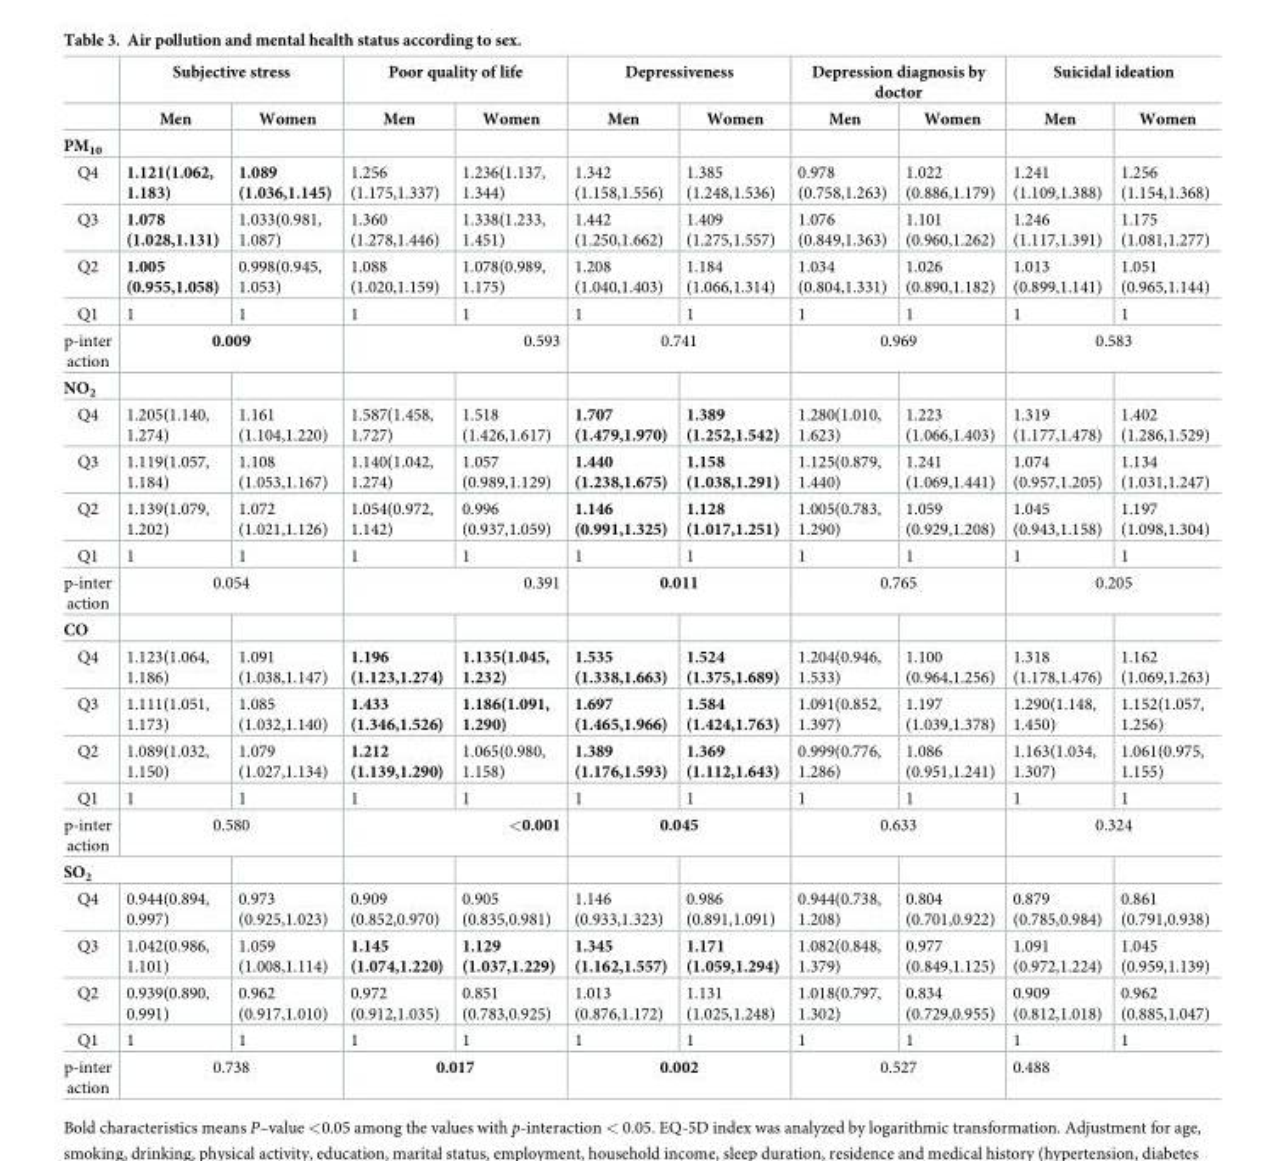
<table><thead><tr><td rowspan="2"></td><td colspan="2">Subjective stress</td><td colspan="2">Poor quality of life</td><td colspan="2">Depressiveness</td><td colspan="2">Depression diagnosis by doctor</td><td colspan="2">Suicidal ideation</td></tr><tr><td>Men</td><td>Women</td><td>Men</td><td>Women</td><td>Men</td><td>Women</td><td>Men</td><td>Women</td><td>Men</td><td>Women</td></tr></thead><tbody><tr><td colspan="11">PM<sub>10</sub></td></tr><tr><td>Q4</td><td>1.121(1.062, 1.183)</td><td>1.089 (1.036,1.145)</td><td>1.256 (1.175,1.337)</td><td>1.236(1.137, 1.344)</td><td>1.342 (1.158,1.556)</td><td>1.385 (1.248,1.536)</td><td>0.978 (0.758,1.263)</td><td>1.022 (0.886,1.179)</td><td>1.241 (1.109,1.388)</td><td>1.256 (1.154,1.368)</td></tr><tr><td>Q3</td><td>1.078 (1.028,1.131)</td><td>1.033(0.981, 1.087)</td><td>1.360 (1.278,1.446)</td><td>1.338(1.233, 1.451)</td><td>1.442 (1.250,1.662)</td><td>1.409 (1.275,1.557)</td><td>1.076 (0.849,1.363)</td><td>1.101 (0.960,1.262)</td><td>1.246 (1.117,1.391)</td><td>1.175 (1.081,1.277)</td></tr><tr><td>Q2</td><td>1.005 (0.955,1.058)</td><td>0.998(0.945, 1.053)</td><td>1.088 (1.020,1.159)</td><td>1.078(0.989, 1.175)</td><td>1.208 (1.040,1.403)</td><td>1.184 (1.066,1.314)</td><td>1.034 (0.804,1.331)</td><td>1.026 (0.890,1.182)</td><td>1.013 (0.899,1.141)</td><td>1.051 (0.965,1.144)</td></tr><tr><td>Q1</td><td>1</td><td>1</td><td>1</td><td>1</td><td>1</td><td>1</td><td>1</td><td>1</td><td>1</td><td>1</td></tr><tr><td>p-inter action</td><td colspan="2">0.009</td><td colspan="2">0.593</td><td colspan="2">0.741</td><td colspan="2">0.969</td><td colspan="2">0.583</td></tr><tr><td colspan="11">NO<sub>2</sub></td></tr><tr><td>Q4</td><td>1.205(1.140, 1.274)</td><td>1.161 (1.104,1.220)</td><td>1.587(1.458, 1.727)</td><td>1.518 (1.426,1.617)</td><td>1.707 (1.479,1.970)</td><td>1.389 (1.252,1.542)</td><td>1.280(1.010, 1.623)</td><td>1.223 (1.066,1.403)</td><td>1.319 (1.177,1.478)</td><td>1.402 (1.286,1.529)</td></tr><tr><td>Q3</td><td>1.119(1.057, 1.184)</td><td>1.108 (1.053,1.167)</td><td>1.140(1.042, 1.274)</td><td>1.057 (0.989,1.129)</td><td>1.440 (1.238,1.675)</td><td>1.158 (1.038,1.291)</td><td>1.125(0.879, 1.440)</td><td>1.241 (1.069,1.441)</td><td>1.074 (0.957,1.205)</td><td>1.134 (1.031,1.247)</td></tr><tr><td>Q2</td><td>1.139(1.079, 1.202)</td><td>1.072 (1.021,1.126)</td><td>1.054(0.972, 1.142)</td><td>0.996 (0.937,1.059)</td><td>1.146 (0.991,1.325)</td><td>1.128 (1.017,1.251)</td><td>1.005(0.783, 1.290)</td><td>1.059 (0.929,1.208)</td><td>1.045 (0.943,1.158)</td><td>1.197 (1.098,1.304)</td></tr><tr><td>Q1</td><td>1</td><td>1</td><td>1</td><td>1</td><td>1</td><td>1</td><td>1</td><td>1</td><td>1</td><td>1</td></tr><tr><td>p-inter action</td><td colspan="2">0.054</td><td colspan="2">0.391</td><td colspan="2">0.011</td><td colspan="2">0.765</td><td colspan="2">0.205</td></tr><tr><td colspan="11">CO</td></tr><tr><td>Q4</td><td>1.123(1.064, 1.186)</td><td>1.091 (1.038,1.147)</td><td>1.196 (1.123,1.274)</td><td>1.135(1.045, 1.232)</td><td>1.535 (1.338,1.663)</td><td>1.524 (1.375,1.689)</td><td>1.204(0.946, 1.533)</td><td>1.100 (0.964,1.256)</td><td>1.318 (1.178,1.476)</td><td>1.162 (1.069,1.263)</td></tr><tr><td>Q3</td><td>1.111(1.051, 1.173)</td><td>1.085 (1.032,1.140)</td><td>1.433 (1.346,1.526)</td><td>1.186(1.091, 1.290)</td><td>1.697 (1.465,1.966)</td><td>1.584 (1.424,1.763)</td><td>1.091(0.852, 1.397)</td><td>1.197 (1.039,1.378)</td><td>1.290(1.148, 1.450)</td><td>1.152(1.057, 1.256)</td></tr><tr><td>Q2</td><td>1.089(1.032, 1.150)</td><td>1.079 (1.027,1.134)</td><td>1.212 (1.139,1.290)</td><td>1.065(0.980, 1.158)</td><td>1.389 (1.176,1.593)</td><td>1.369 (1.112,1.643)</td><td>0.999(0.776, 1.286)</td><td>1.086 (0.951,1.241)</td><td>1.163(1.034, 1.307)</td><td>1.061(0.975, 1.155)</td></tr><tr><td>Q1</td><td>1</td><td>1</td><td>1</td><td>1</td><td>1</td><td>1</td><td>1</td><td>1</td><td>1</td><td>1</td></tr><tr><td>p-inter action</td><td colspan="2">0.580</td><td colspan="2">&lt;0.001</td><td colspan="2">0.045</td><td colspan="2">0.633</td><td colspan="2">0.324</td></tr><tr><td colspan="11">SO<sub>2</sub></td></tr><tr><td>Q4</td><td>0.944(0.894, 0.997)</td><td>0.973 (0.925,1.023)</td><td>0.909 (0.852,0.970)</td><td>0.905 (0.835,0.981)</td><td>1.146 (0.933,1.323)</td><td>0.986 (0.891,1.091)</td><td>0.944(0.738, 1.208)</td><td>0.804 (0.701,0.922)</td><td>0.879 (0.785,0.984)</td><td>0.861 (0.791,0.938)</td></tr><tr><td>Q3</td><td>1.042(0.986, 1.101)</td><td>1.059 (1.008,1.114)</td><td>1.145 (1.074,1.220)</td><td>1.129 (1.037,1.229)</td><td>1.345 (1.162,1.557)</td><td>1.171 (1.059,1.294)</td><td>1.082(0.848, 1.379)</td><td>0.977 (0.849,1.125)</td><td>1.091 (0.972,1.224)</td><td>1.045 (0.959,1.139)</td></tr><tr><td>Q2</td><td>0.939(0.890, 0.991)</td><td>0.962 (0.917,1.010)</td><td>0.972 (0.912,1.035)</td><td>0.851 (0.783,0.925)</td><td>1.013 (0.876,1.172)</td><td>1.131 (1.025,1.248)</td><td>1.018(0.797, 1.302)</td><td>0.834 (0.729,0.955)</td><td>0.909 (0.812,1.018)</td><td>0.962 (0.885,1.047)</td></tr><tr><td>Q1</td><td>1</td><td>1</td><td>1</td><td>1</td><td>1</td><td>1</td><td>1</td><td>1</td><td>1</td><td>1</td></tr><tr><td>p-inter action</td><td colspan="2">0.738</td><td colspan="2">0.017</td><td colspan="2">0.002</td><td colspan="2">0.527</td><td colspan="2">0.488</td></tr></tbody></table>